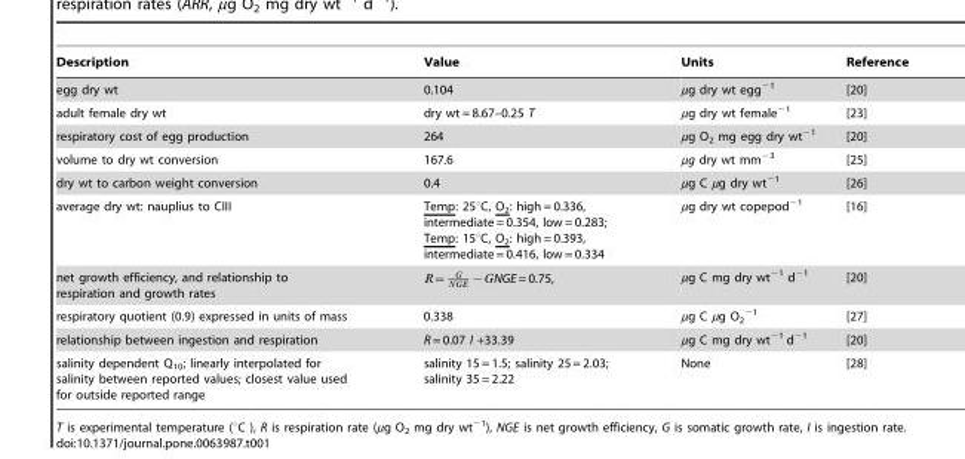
<table><thead><tr><td>Description</td><td>Value</td><td>Units</td><td>Reference</td></tr></thead><tbody><tr><td>egg dry wt</td><td>0.104</td><td>µg dry wt egg<sup>−1</sup></td><td>[20]</td></tr><tr><td>adult female dry wt</td><td>dry wt = 8.67–0.25 T</td><td>µg dry wt female<sup>−1</sup></td><td>[23]</td></tr><tr><td>respiratory cost of egg production</td><td>264</td><td>µg O<sub>2</sub> mg egg dry wt<sup>−1</sup></td><td>[20]</td></tr><tr><td>volume to dry wt conversion</td><td>167.6</td><td>µg dry wt mm<sup>−3</sup></td><td>[25]</td></tr><tr><td>dry wt to carbon weight conversion</td><td>0.4</td><td>µg C µg dry wt<sup>−1</sup></td><td>[26]</td></tr><tr><td>average dry wt: nauplius to CIII</td><td>Temp: 25°C, O<sub>2</sub>: high = 0.336, intermediate = 0.354, low = 0.283; Temp: 15°C, O<sub>2</sub>: high = 0.393, intermediate = 0.416, low = 0.334</td><td>µg dry wt copepod<sup>−1</sup></td><td>[16]</td></tr><tr><td>net growth efficiency, and relationship to respiration and growth rates</td><td>R~ G NGE {GNGE = 0.75,</td><td>µg C mg dry wt<sup>−1</sup> d<sup>−1</sup></td><td>[20]</td></tr><tr><td>respiratory quotient (0.9) expressed in units of mass</td><td>0.338</td><td>µg C µg O<sub>2</sub> <sup>−1</sup></td><td>[27]</td></tr><tr><td>relationship between ingestion and respiration</td><td>R = 0.07 I +33.39</td><td>µg C mg dry wt<sup>−1</sup> d<sup>−1</sup></td><td>[20]</td></tr><tr><td>salinity dependent Q<sub>10</sub>; linearly interpolated for salinity between reported values; closest value used for outside reported range</td><td>salinity 15 = 1.5; salinity 25 = 2.03; salinity 35 = 2.22</td><td>None</td><td>[28]</td></tr></tbody></table>